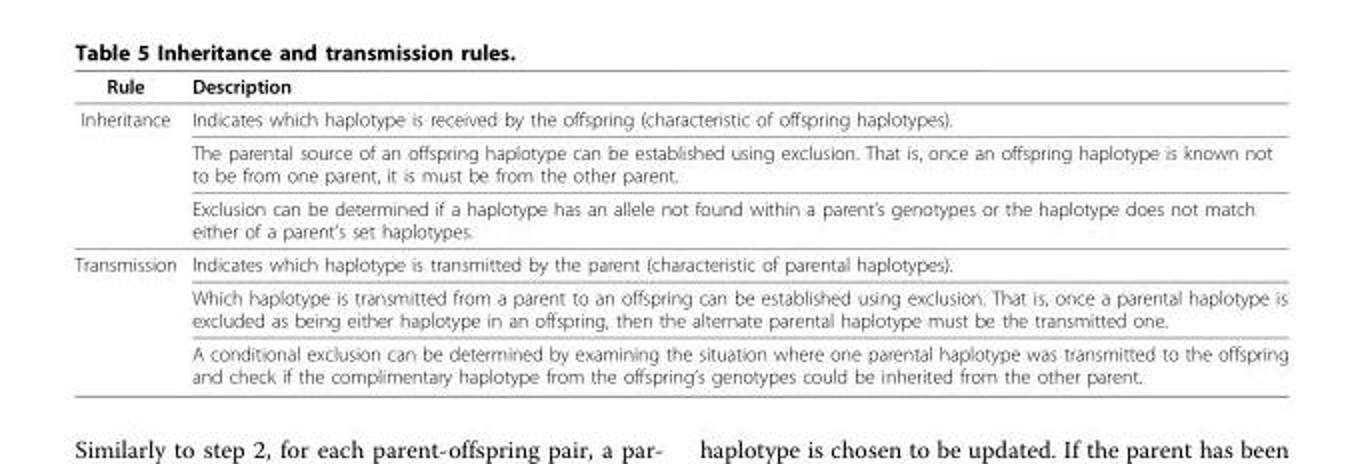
<table><thead><tr><td>Rule</td><td>Description</td></tr></thead><tbody><tr><td rowspan="3">Inheritance</td><td>Indicates which haplotype is received by the offspring (characteristic of offspring haplotypes).</td></tr><tr><td>The parental source of an offspring haplotype can be established using exclusion. That is, once an offspring haplotype is known not to be from one parent, it is must be from the other parent.</td></tr><tr><td>Exclusion can be determined if a haplotype has an allele not found within a parent’s genotypes or the haplotype does not match either of a parent’s set haplotypes.</td></tr><tr><td rowspan="3">Transmission</td><td>Indicates which haplotype is transmitted by the parent (characteristic of parental haplotypes).</td></tr><tr><td>Which haplotype is transmitted from a parent to an offspring can be established using exclusion. That is, once a parental haplotype is excluded as being either haplotype in an offspring, then the alternate parental haplotype must be the transmitted one.</td></tr><tr><td>A conditional exclusion can be determined by examining the situation where one parental haplotype was transmitted to the offspring and check if the complimentary haplotype from the offspring’s genotypes could be inherited from the other parent.</td></tr></tbody></table>